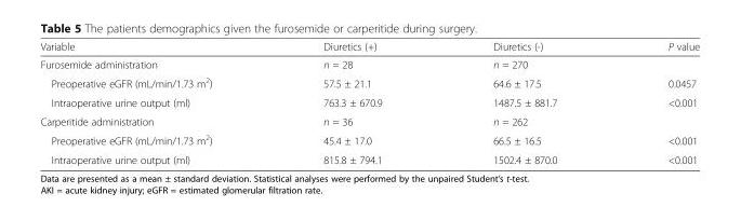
<table><thead><tr><td>Variable</td><td>Diuretics (+)</td><td>Diuretics (-)</td><td>P value</td></tr></thead><tbody><tr><td>Furosemide administration</td><td>n = 28</td><td>n = 270</td><td></td></tr><tr><td>Preoperative eGFR (mL/min/1.73 m<sup>2</sup>)</td><td>57.5 ± 21.1</td><td>64.6 ± 17.5</td><td>0.0457</td></tr><tr><td>Intraoperative urine output (ml)</td><td>763.3 ± 670.9</td><td>1487.5 ± 881.7</td><td>&lt;0.001</td></tr><tr><td>Carperitide administration</td><td>n = 36</td><td>n = 262</td><td></td></tr><tr><td>Preoperative eGFR (mL/min/1.73 m<sup>2</sup>)</td><td>45.4 ± 17.0</td><td>66.5 ± 16.5</td><td>&lt;0.001</td></tr><tr><td>Intraoperative urine output (ml)</td><td>815.8 ± 794.1</td><td>1502.4 ± 870.0</td><td>&lt;0.001</td></tr></tbody></table>